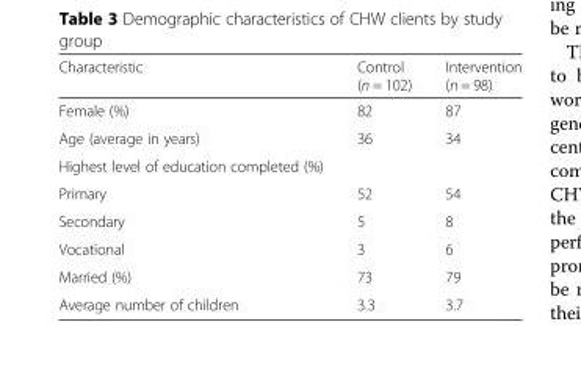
<table><thead><tr><td>Characteristic</td><td>Control (n = 102)</td><td>Intervention (n = 98)</td></tr></thead><tbody><tr><td>Female (%)</td><td>82</td><td>87</td></tr><tr><td>Age (average in years)</td><td>36</td><td>34</td></tr><tr><td colspan="3">Highest level of education completed (%)</td></tr><tr><td>Primary</td><td>52</td><td>54</td></tr><tr><td>Secondary</td><td>5</td><td>8</td></tr><tr><td>Vocational</td><td>3</td><td>6</td></tr><tr><td>Married (%)</td><td>73</td><td>79</td></tr><tr><td>Average number of children</td><td>3.3</td><td>3.7</td></tr></tbody></table>